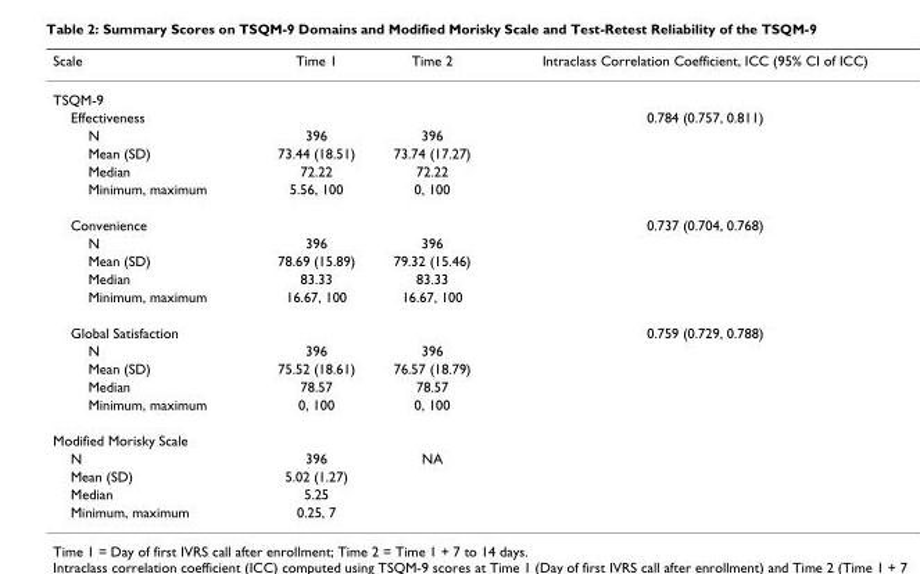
<table><thead><tr><td>Scale</td><td>Time 1</td><td>Time 2</td><td>Intraclass Correlation Coefficient, ICC (95% CI of ICC)</td></tr></thead><tbody><tr><td colspan="4">TSQM-9</td></tr><tr><td>Effectiveness</td><td></td><td></td><td>0.784 (0.757, 0.811)</td></tr><tr><td>N</td><td>396</td><td>396</td><td></td></tr><tr><td>Mean (SD)</td><td>73.44 (18.51)</td><td>73.74 (17.27)</td><td></td></tr><tr><td>Median</td><td>72.22</td><td>72.22</td><td></td></tr><tr><td>Minimum, maximum</td><td>5.56, 100</td><td>0, 100</td><td></td></tr><tr><td>Convenience</td><td></td><td></td><td>0.737 (0.704, 0.768)</td></tr><tr><td>N</td><td>396</td><td>396</td><td></td></tr><tr><td>Mean (SD)</td><td>78.69 (15.89)</td><td>79.32 (15.46)</td><td></td></tr><tr><td>Median</td><td>83.33</td><td>83.33</td><td></td></tr><tr><td>Minimum, maximum</td><td>16.67, 100</td><td>16.67, 100</td><td></td></tr><tr><td>Global Satisfaction</td><td></td><td></td><td>0.759 (0.729, 0.788)</td></tr><tr><td>N</td><td>396</td><td>396</td><td></td></tr><tr><td>Mean (SD)</td><td>75.52 (18.61)</td><td>76.57 (18.79)</td><td></td></tr><tr><td>Median</td><td>78.57</td><td>78.57</td><td></td></tr><tr><td>Minimum, maximum</td><td>0, 100</td><td>0, 100</td><td></td></tr><tr><td colspan="4">Modified Morisky Scale</td></tr><tr><td>N</td><td>396</td><td>NA</td><td></td></tr><tr><td>Mean (SD)</td><td>5.02 (1.27)</td><td></td><td></td></tr><tr><td>Median</td><td>5.25</td><td></td><td></td></tr><tr><td>Minimum, maximum</td><td>0.25, 7</td><td></td><td></td></tr></tbody></table>